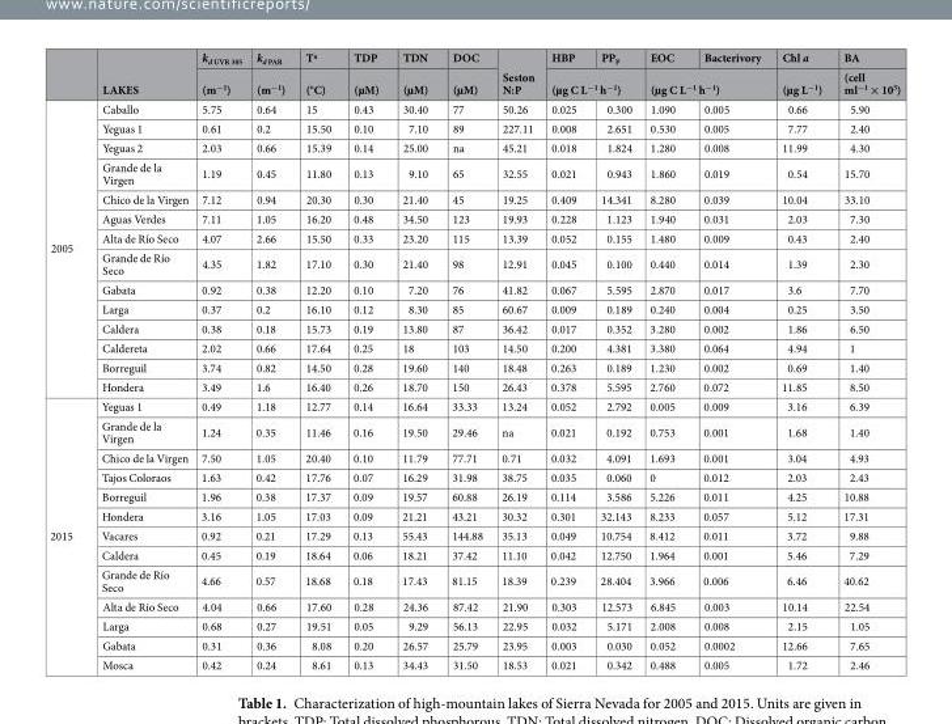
<table><thead><tr><td rowspan="2"></td><td rowspan="2">LAKES</td><td rowspan="2">k<sub>d UVR 305</sub> (m<sup>−1</sup>)</td><td rowspan="2">k<sub>d PAR</sub> (m<sup>−1</sup>)</td><td rowspan="2">Tª (°C)</td><td rowspan="2">TDP (µM)</td><td rowspan="2">TDN (µM)</td><td rowspan="2">DOC (µM)</td><td rowspan="2">Seston N:P</td><td>HBP</td><td>PP<sub>P</sub></td><td>EOC</td><td>Bacterivory</td><td rowspan="2">Chl a (µg L<sup>−1</sup>)</td><td rowspan="2">BA (cell ml<sup>−1</sup> × 10<sup>5</sup>)</td></tr><tr><td colspan="2">(µg C L<sup>−1</sup> h<sup>−1</sup>)</td><td colspan="2">(µg C L<sup>−1</sup> h<sup>−1</sup>)</td></tr></thead><tbody><tr><td rowspan="14">2005</td><td>Caballo</td><td>5.75</td><td>0.64</td><td>15</td><td>0.43</td><td>30.40</td><td>77</td><td>50.26</td><td>0.025</td><td>0.300</td><td>1.090</td><td>0.005</td><td>0.66</td><td>5.90</td></tr><tr><td>Yeguas 1</td><td>0.61</td><td>0.2</td><td>15.50</td><td>0.10</td><td>7.10</td><td>89</td><td>227.11</td><td>0.008</td><td>2.651</td><td>0.530</td><td>0.005</td><td>7.77</td><td>2.40</td></tr><tr><td>Yeguas 2</td><td>2.03</td><td>0.66</td><td>15.39</td><td>0.14</td><td>25.00</td><td>na</td><td>45.21</td><td>0.018</td><td>1.824</td><td>1.280</td><td>0.008</td><td>11.99</td><td>4.30</td></tr><tr><td>Grande de la Virgen</td><td>1.19</td><td>0.45</td><td>11.80</td><td>0.13</td><td>9.10</td><td>65</td><td>32.55</td><td>0.021</td><td>0.943</td><td>1.860</td><td>0.019</td><td>0.54</td><td>15.70</td></tr><tr><td>Chico de la Virgen</td><td>7.12</td><td>0.94</td><td>20.30</td><td>0.30</td><td>21.40</td><td>45</td><td>19.25</td><td>0.409</td><td>14.341</td><td>8.280</td><td>0.039</td><td>10.04</td><td>33.10</td></tr><tr><td>Aguas Verdes</td><td>7.11</td><td>1.05</td><td>16.20</td><td>0.48</td><td>34.50</td><td>123</td><td>19.93</td><td>0.228</td><td>1.123</td><td>1.940</td><td>0.031</td><td>2.03</td><td>7.30</td></tr><tr><td>Alta de Río Seco</td><td>4.07</td><td>2.66</td><td>15.50</td><td>0.33</td><td>23.20</td><td>115</td><td>13.39</td><td>0.052</td><td>0.155</td><td>1.480</td><td>0.009</td><td>0.43</td><td>2.40</td></tr><tr><td>Grande de Río Seco</td><td>4.35</td><td>1.82</td><td>17.10</td><td>0.30</td><td>21.40</td><td>98</td><td>12.91</td><td>0.045</td><td>0.100</td><td>0.440</td><td>0.014</td><td>1.39</td><td>2.30</td></tr><tr><td>Gabata</td><td>0.92</td><td>0.38</td><td>12.20</td><td>0.10</td><td>7.20</td><td>76</td><td>41.82</td><td>0.067</td><td>5.595</td><td>2.870</td><td>0.017</td><td>3.6</td><td>7.70</td></tr><tr><td>Larga</td><td>0.37</td><td>0.2</td><td>16.10</td><td>0.12</td><td>8.30</td><td>85</td><td>60.67</td><td>0.009</td><td>0.189</td><td>0.240</td><td>0.004</td><td>0.25</td><td>3.50</td></tr><tr><td>Caldera</td><td>0.38</td><td>0.18</td><td>15.73</td><td>0.19</td><td>13.80</td><td>87</td><td>36.42</td><td>0.017</td><td>0.352</td><td>3.280</td><td>0.002</td><td>1.86</td><td>6.50</td></tr><tr><td>Caldereta</td><td>2.02</td><td>0.66</td><td>17.64</td><td>0.25</td><td>18</td><td>103</td><td>14.50</td><td>0.200</td><td>4.381</td><td>3.380</td><td>0.064</td><td>4.94</td><td>1</td></tr><tr><td>Borreguil</td><td>3.74</td><td>0.82</td><td>14.50</td><td>0.28</td><td>19.60</td><td>140</td><td>18.48</td><td>0.263</td><td>0.189</td><td>1.230</td><td>0.002</td><td>0.69</td><td>1.40</td></tr><tr><td>Hondera</td><td>3.49</td><td>1.6</td><td>16.40</td><td>0.26</td><td>18.70</td><td>150</td><td>26.43</td><td>0.378</td><td>5.595</td><td>2.760</td><td>0.072</td><td>11.85</td><td>8.50</td></tr><tr><td rowspan="13">2015</td><td>Yeguas 1</td><td>0.49</td><td>1.18</td><td>12.77</td><td>0.14</td><td>16.64</td><td>33.33</td><td>13.24</td><td>0.052</td><td>2.792</td><td>0.005</td><td>0.009</td><td>3.16</td><td>6.39</td></tr><tr><td>Grande de la Virgen</td><td>1.24</td><td>0.35</td><td>11.46</td><td>0.16</td><td>19.50</td><td>29.46</td><td>na</td><td>0.021</td><td>0.192</td><td>0.753</td><td>0.001</td><td>1.68</td><td>1.40</td></tr><tr><td>Chico de la Virgen</td><td>7.50</td><td>1.05</td><td>20.40</td><td>0.10</td><td>11.79</td><td>77.71</td><td>0.71</td><td>0.032</td><td>4.091</td><td>1.693</td><td>0.001</td><td>3.04</td><td>4.93</td></tr><tr><td>Tajos Coloraos</td><td>1.63</td><td>0.42</td><td>17.76</td><td>0.07</td><td>16.29</td><td>31.98</td><td>38.75</td><td>0.035</td><td>0.060</td><td>0</td><td>0.012</td><td>2.03</td><td>2.43</td></tr><tr><td>Borreguil</td><td>1.96</td><td>0.38</td><td>17.37</td><td>0.09</td><td>19.57</td><td>60.88</td><td>26.19</td><td>0.114</td><td>3.586</td><td>5.226</td><td>0.011</td><td>4.25</td><td>10.88</td></tr><tr><td>Hondera</td><td>3.16</td><td>1.05</td><td>17.03</td><td>0.09</td><td>21.21</td><td>43.21</td><td>30.32</td><td>0.301</td><td>32.143</td><td>8.233</td><td>0.057</td><td>5.12</td><td>17.31</td></tr><tr><td>Vacares</td><td>0.92</td><td>0.21</td><td>17.29</td><td>0.13</td><td>55.43</td><td>144.88</td><td>35.13</td><td>0.049</td><td>10.754</td><td>8.412</td><td>0.011</td><td>3.72</td><td>9.88</td></tr><tr><td>Caldera</td><td>0.45</td><td>0.19</td><td>18.64</td><td>0.06</td><td>18.21</td><td>37.42</td><td>11.10</td><td>0.042</td><td>12.750</td><td>1.964</td><td>0.001</td><td>5.46</td><td>7.29</td></tr><tr><td>Grande de Río Seco</td><td>4.66</td><td>0.57</td><td>18.68</td><td>0.18</td><td>17.43</td><td>81.15</td><td>18.39</td><td>0.239</td><td>28.404</td><td>3.966</td><td>0.006</td><td>6.46</td><td>40.62</td></tr><tr><td>Alta de Río Seco</td><td>4.04</td><td>0.66</td><td>17.60</td><td>0.28</td><td>24.36</td><td>87.42</td><td>21.90</td><td>0.303</td><td>12.573</td><td>6.845</td><td>0.003</td><td>10.14</td><td>22.54</td></tr><tr><td>Larga</td><td>0.68</td><td>0.27</td><td>19.51</td><td>0.05</td><td>9.29</td><td>56.13</td><td>22.95</td><td>0.032</td><td>5.171</td><td>2.008</td><td>0.008</td><td>2.15</td><td>1.05</td></tr><tr><td>Gabata</td><td>0.31</td><td>0.36</td><td>8.08</td><td>0.20</td><td>26.57</td><td>25.79</td><td>23.95</td><td>0.003</td><td>0.030</td><td>0.052</td><td>0.0002</td><td>12.66</td><td>7.65</td></tr><tr><td>Mosca</td><td>0.42</td><td>0.24</td><td>8.61</td><td>0.13</td><td>34.43</td><td>31.50</td><td>18.53</td><td>0.021</td><td>0.342</td><td>0.488</td><td>0.005</td><td>1.72</td><td>2.46</td></tr></tbody></table>